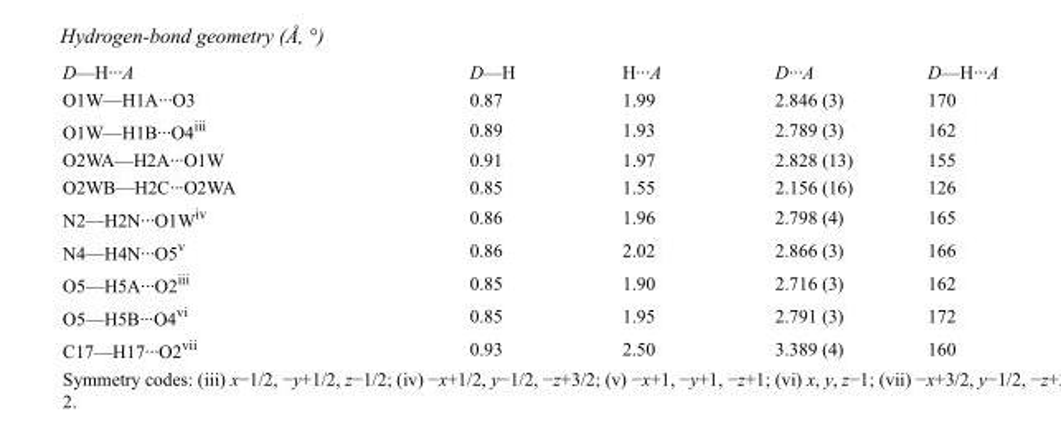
<table><tbody><tr><td>D—H···A</td><td>D—H</td><td>H···A</td><td>D···A</td><td>D—H···A</td></tr><tr><td>O1W—H1A···O3</td><td>0.87</td><td>1.99</td><td>2.846 (3)</td><td>170</td></tr><tr><td>O1W—H1B···O4<sup>iii</sup></td><td>0.89</td><td>1.93</td><td>2.789 (3)</td><td>162</td></tr><tr><td>O2WA—H2A···O1W</td><td>0.91</td><td>1.97</td><td>2.828 (13)</td><td>155</td></tr><tr><td>O2WB—H2C···O2WA</td><td>0.85</td><td>1.55</td><td>2.156 (16)</td><td>126</td></tr><tr><td>N2—H2N···O1W<sup>iv</sup></td><td>0.86</td><td>1.96</td><td>2.798 (4)</td><td>165</td></tr><tr><td>N4—H4N···O5<sup>v</sup></td><td>0.86</td><td>2.02</td><td>2.866 (3)</td><td>166</td></tr><tr><td>O5—H5A···O2<sup>iii</sup></td><td>0.85</td><td>1.90</td><td>2.716 (3)</td><td>162</td></tr><tr><td>O5—H5B···O4<sup>vi</sup></td><td>0.85</td><td>1.95</td><td>2.791 (3)</td><td>172</td></tr><tr><td>C17—H17···O2<sup>vii</sup></td><td>0.93</td><td>2.50</td><td>3.389 (4)</td><td>160</td></tr></tbody></table>